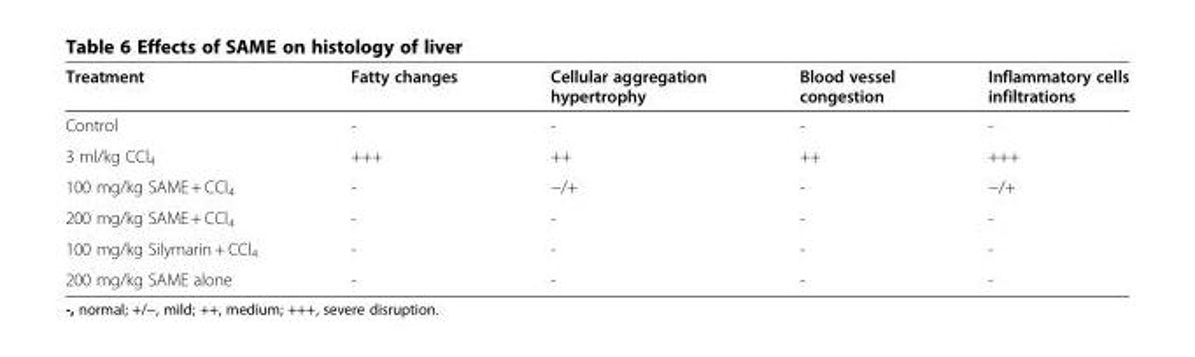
<table><thead><tr><td>Treatment</td><td>Fatty changes</td><td>Cellular aggregation hypertrophy</td><td>Blood vessel congestion</td><td>Inflammatory cells infiltrations</td></tr></thead><tbody><tr><td>Control</td><td>-</td><td>-</td><td>-</td><td>-</td></tr><tr><td>3 ml/kg CCl<sub>4</sub></td><td>+++</td><td>++</td><td>++</td><td>+++</td></tr><tr><td>100 mg/kg SAME + CCl<sub>4</sub></td><td>-</td><td>−/+</td><td>-</td><td>−/+</td></tr><tr><td>200 mg/kg SAME + CCl<sub>4</sub></td><td>-</td><td>-</td><td>-</td><td>-</td></tr><tr><td>100 mg/kg Silymarin + CCl<sub>4</sub></td><td>-</td><td>-</td><td>-</td><td>-</td></tr><tr><td>200 mg/kg SAME alone</td><td>-</td><td>-</td><td>-</td><td>-</td></tr></tbody></table>